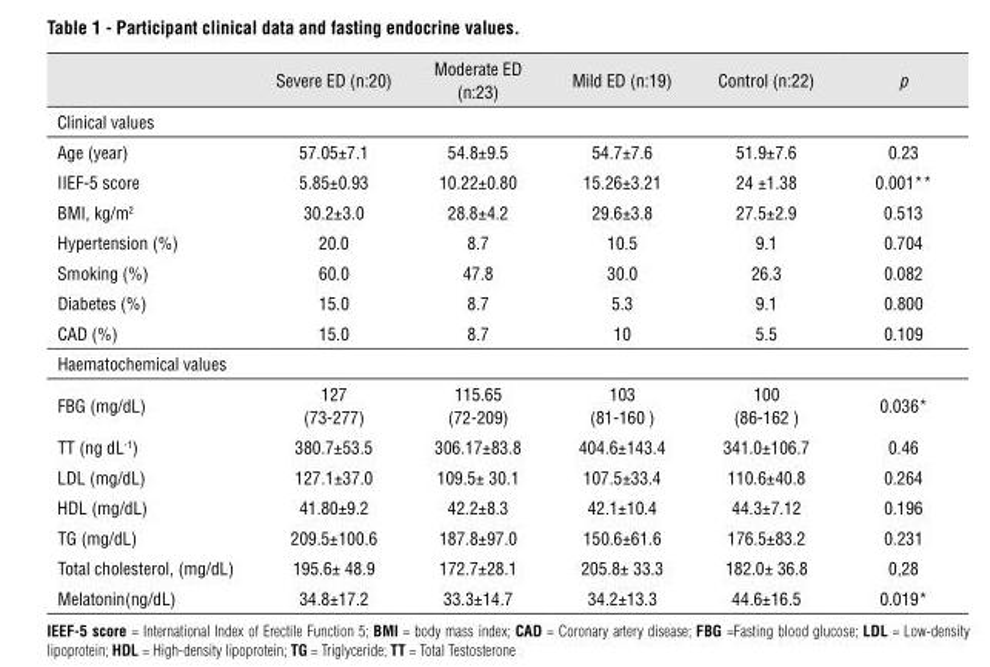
<table><thead><tr><td></td><td>Severe ED (n:20)</td><td>Moderate ED (n:23)</td><td>Mild ED (n:19)</td><td>Control (n:22)</td><td>p</td></tr></thead><tbody><tr><td colspan="6">Clinical values</td></tr><tr><td>Age (year)</td><td>57.05±7.1</td><td>54.8±9.5</td><td>54.7±7.6</td><td>51.9±7.6</td><td>0.23</td></tr><tr><td>IIEF-5 score</td><td>5.85±0.93</td><td>10.22±0.80</td><td>15.26±3.21</td><td>24 ±1.38</td><td>0.001**</td></tr><tr><td>BMI, kg/m<sup>2</sup></td><td>30.2±3.0</td><td>28.8±4.2</td><td>29.6±3.8</td><td>27.5±2.9</td><td>0.513</td></tr><tr><td>Hypertension (%)</td><td>20.0</td><td>8.7</td><td>10.5</td><td>9.1</td><td>0.704</td></tr><tr><td>Smoking (%)</td><td>60.0</td><td>47.8</td><td>30.0</td><td>26.3</td><td>0.082</td></tr><tr><td>Diabetes (%)</td><td>15.0</td><td>8.7</td><td>5.3</td><td>9.1</td><td>0.800</td></tr><tr><td>CAD (%)</td><td>15.0</td><td>8.7</td><td>10</td><td>5.5</td><td>0.109</td></tr><tr><td colspan="6">Haematochemical values</td></tr><tr><td>FBG (mg/dL)</td><td>127 (73-277)</td><td>115.65 (72-209)</td><td>103 (81-160 )</td><td>100 (86-162 )</td><td>0.036*</td></tr><tr><td>TT (ng dL<sup>-1</sup>)</td><td>380.7±53.5</td><td>306.17±83.8</td><td>404.6±143.4</td><td>341.0±106.7</td><td>0.46</td></tr><tr><td>LDL (mg/dL)</td><td>127.1±37.0</td><td>109.5± 30.1</td><td>107.5±33.4</td><td>110.6±40.8</td><td>0.264</td></tr><tr><td>HDL (mg/dL)</td><td>41.80±9.2</td><td>42.2±8.3</td><td>42.1±10.4</td><td>44.3±7.12</td><td>0.196</td></tr><tr><td>TG (mg/dL)</td><td>209.5±100.6</td><td>187.8±97.0</td><td>150.6±61.6</td><td>176.5±83.2</td><td>0.231</td></tr><tr><td>Total cholesterol, (mg/dL)</td><td>195.6± 48.9</td><td>172.7±28.1</td><td>205.8± 33.3</td><td>182.0± 36.8</td><td>0,28</td></tr><tr><td>Melatonin(ng/dL)</td><td>34.8±17.2</td><td>33.3±14.7</td><td>34.2±13.3</td><td>44.6±16.5</td><td>0.019*</td></tr></tbody></table>